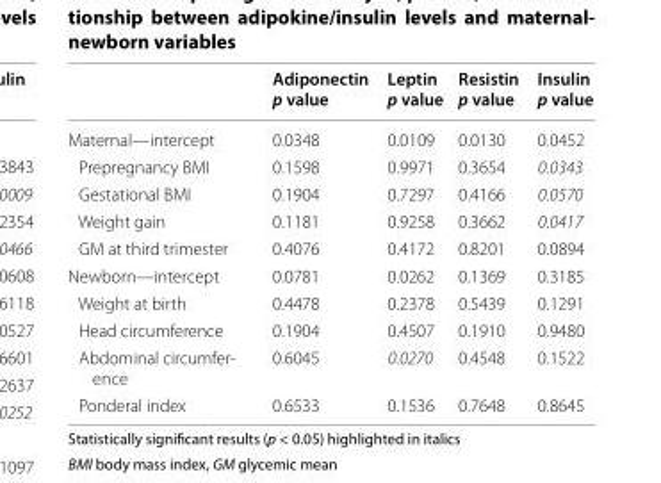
<table><thead><tr><td></td><td>Adiponectin p value</td><td>Leptin p value</td><td>Resistin p value</td><td>Insulin p value</td></tr></thead><tbody><tr><td>Maternal—intercept</td><td>0.0348</td><td>0.0109</td><td>0.0130</td><td>0.0452</td></tr><tr><td>Prepregnancy BMI</td><td>0.1598</td><td>0.9971</td><td>0.3654</td><td>0.0343</td></tr><tr><td>Gestational BMI</td><td>0.1904</td><td>0.7297</td><td>0.4166</td><td>0.0570</td></tr><tr><td>Weight gain</td><td>0.1181</td><td>0.9258</td><td>0.3662</td><td>0.0417</td></tr><tr><td>GM at third trimester</td><td>0.4076</td><td>0.4172</td><td>0.8201</td><td>0.0894</td></tr><tr><td>Newborn—intercept</td><td>0.0781</td><td>0.0262</td><td>0.1369</td><td>0.3185</td></tr><tr><td>Weight at birth</td><td>0.4478</td><td>0.2378</td><td>0.5439</td><td>0.1291</td></tr><tr><td>Head circumference</td><td>0.1904</td><td>0.4507</td><td>0.1910</td><td>0.9480</td></tr><tr><td>Abdominal circumfer- ence</td><td>0.6045</td><td>0.0270</td><td>0.4548</td><td>0.1522</td></tr><tr><td>Ponderal index</td><td>0.6533</td><td>0.1536</td><td>0.7648</td><td>0.8645</td></tr></tbody></table>